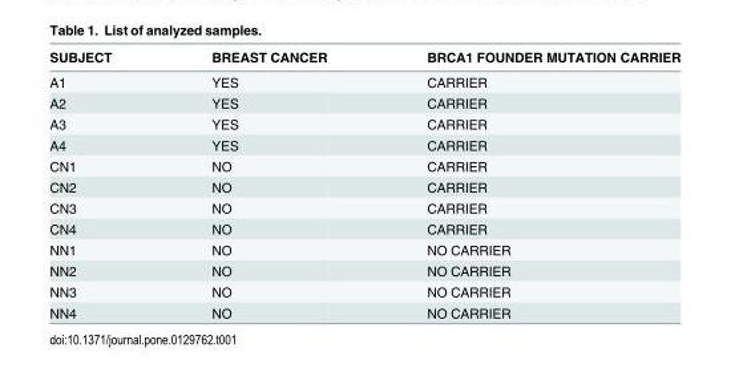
<table><thead><tr><td>SUBJECT</td><td>BREAST CANCER</td><td>BRCA1 FOUNDER MUTATION CARRIER</td></tr></thead><tbody><tr><td>A1</td><td>YES</td><td>CARRIER</td></tr><tr><td>A2</td><td>YES</td><td>CARRIER</td></tr><tr><td>A3</td><td>YES</td><td>CARRIER</td></tr><tr><td>A4</td><td>YES</td><td>CARRIER</td></tr><tr><td>CN1</td><td>NO</td><td>CARRIER</td></tr><tr><td>CN2</td><td>NO</td><td>CARRIER</td></tr><tr><td>CN3</td><td>NO</td><td>CARRIER</td></tr><tr><td>CN4</td><td>NO</td><td>CARRIER</td></tr><tr><td>NN1</td><td>NO</td><td>NO CARRIER</td></tr><tr><td>NN2</td><td>NO</td><td>NO CARRIER</td></tr><tr><td>NN3</td><td>NO</td><td>NO CARRIER</td></tr><tr><td>NN4</td><td>NO</td><td>NO CARRIER</td></tr></tbody></table>